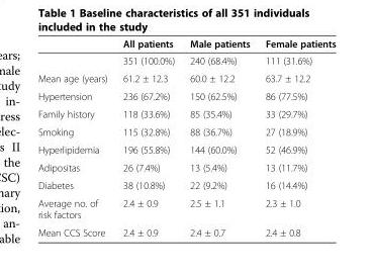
<table><thead><tr><td></td><td>All patients</td><td>Male patients</td><td>Female patients</td></tr></thead><tbody><tr><td></td><td>351 (100.0%)</td><td>240 (68.4%)</td><td>111 (31.6%)</td></tr><tr><td>Mean age (years)</td><td>61.2 ± 12.3</td><td>60.0 ± 12.2</td><td>63.7 ± 12.2</td></tr><tr><td>Hypertension</td><td>236 (67.2%)</td><td>150 (62.5%)</td><td>86 (77.5%)</td></tr><tr><td>Family history</td><td>118 (33.6%)</td><td>85 (35.4%)</td><td>33 (29.7%)</td></tr><tr><td>Smoking</td><td>115 (32.8%)</td><td>88 (36.7%)</td><td>27 (18.9%)</td></tr><tr><td>Hyperlipidemia</td><td>196 (55.8%)</td><td>144 (60.0%)</td><td>52 (46.9%)</td></tr><tr><td>Adipositas</td><td>26 (7.4%)</td><td>13 (5.4%)</td><td>13 (11.7%)</td></tr><tr><td>Diabetes</td><td>38 (10.8%)</td><td>22 (9.2%)</td><td>16 (14.4%)</td></tr><tr><td>Average no. of risk factors</td><td>2.4 ± 0.9</td><td>2.5 ± 1.1</td><td>2.3 ± 1.0</td></tr><tr><td>Mean CCS Score</td><td>2.4 ± 0.9</td><td>2.4 ± 0.7</td><td>2.4 ± 0.8</td></tr></tbody></table>